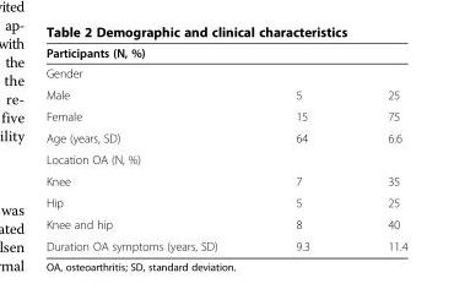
<table><thead><tr><td>Participants (N, %)</td><td></td><td></td></tr></thead><tbody><tr><td colspan="3">Gender</td></tr><tr><td>Male</td><td>5</td><td>25</td></tr><tr><td>Female</td><td>15</td><td>75</td></tr><tr><td>Age (years, SD)</td><td>64</td><td>6.6</td></tr><tr><td colspan="3">Location OA (N, %)</td></tr><tr><td>Knee</td><td>7</td><td>35</td></tr><tr><td>Hip</td><td>5</td><td>25</td></tr><tr><td>Knee and hip</td><td>8</td><td>40</td></tr><tr><td>Duration OA symptoms (years, SD)</td><td>9.3</td><td>11.4</td></tr></tbody></table>